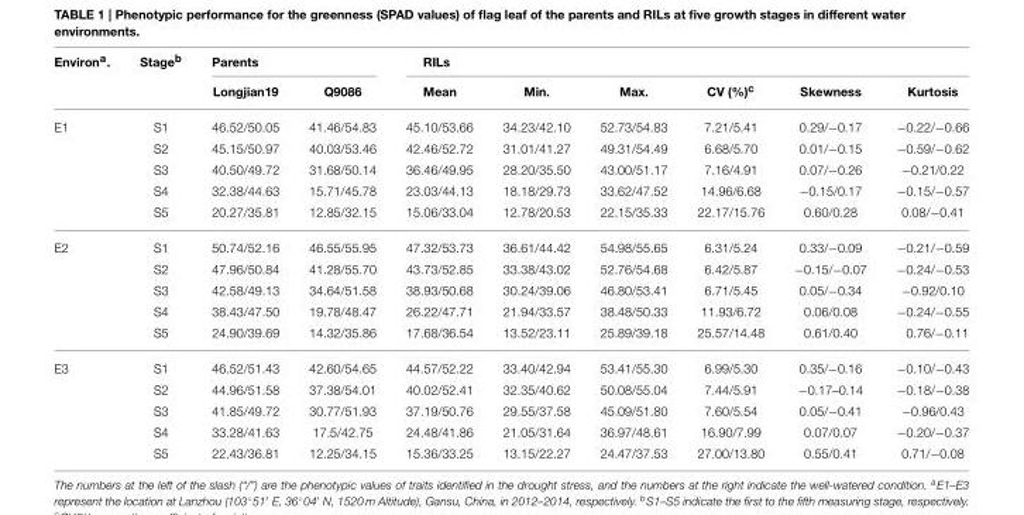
<table><thead><tr><td rowspan="2">Environ<sup>a</sup>.</td><td rowspan="2">Stage<sup>b</sup></td><td colspan="2">Parents</td><td colspan="6">RILs</td></tr><tr><td>Longjian19</td><td>Q9086</td><td>Mean</td><td>Min.</td><td>Max.</td><td>CV (%)<sup>c</sup></td><td>Skewness</td><td>Kurtosis</td></tr></thead><tbody><tr><td rowspan="5">E1</td><td>S1</td><td>46.52/50.05</td><td>41.46/54.83</td><td>45.10/53.66</td><td>34.23/42.10</td><td>52.73/54.83</td><td>7.21/5.41</td><td>0.29/−0.17</td><td>−0.22/−0.66</td></tr><tr><td>S2</td><td>45.15/50.97</td><td>40.03/53.46</td><td>42.46/52.72</td><td>31.01/41.27</td><td>49.31/54.49</td><td>6.68/5.70</td><td>0.01/−0.15</td><td>−0.59/−0.62</td></tr><tr><td>S3</td><td>40.50/49.72</td><td>31.68/50.14</td><td>36.46/49.95</td><td>28.20/35.50</td><td>43.00/51.17</td><td>7.16/4.91</td><td>0.07/−0.26</td><td>−0.21/0.22</td></tr><tr><td>S4</td><td>32.38/44.63</td><td>15.71/45.78</td><td>23.03/44.13</td><td>18.18/29.73</td><td>33.62/47.52</td><td>14.96/6.68</td><td>−0.15/0.17</td><td>−0.15/−0.57</td></tr><tr><td>S5</td><td>20.27/35.81</td><td>12.85/32.15</td><td>15.06/33.04</td><td>12.78/20.53</td><td>22.15/35.33</td><td>22.17/15.76</td><td>0.60/0.28</td><td>0.08/−0.41</td></tr><tr><td rowspan="5">E2</td><td>S1</td><td>50.74/52.16</td><td>46.55/55.95</td><td>47.32/53.73</td><td>36.61/44.42</td><td>54.98/55.65</td><td>6.31/5.24</td><td>0.33/−0.09</td><td>−0.21/−0.59</td></tr><tr><td>S2</td><td>47.96/50.84</td><td>41.28/55.70</td><td>43.73/52.85</td><td>33.38/43.02</td><td>52.76/54.68</td><td>6.42/5.87</td><td>−0.15/−0.07</td><td>−0.24/−0.53</td></tr><tr><td>S3</td><td>42.58/49.13</td><td>34.64/51.58</td><td>38.93/50.68</td><td>30.24/39.06</td><td>46.80/53.41</td><td>6.71/5.45</td><td>0.05/−0.34</td><td>−0.92/0.10</td></tr><tr><td>S4</td><td>38.43/47.50</td><td>19.78/48.47</td><td>26.22/47.71</td><td>21.94/33.57</td><td>38.48/50.33</td><td>11.93/6.72</td><td>0.06/0.08</td><td>−0.24/−0.55</td></tr><tr><td>S5</td><td>24.90/39.69</td><td>14.32/35.86</td><td>17.68/36.54</td><td>13.52/23.11</td><td>25.89/39.18</td><td>25.57/14.48</td><td>0.61/0.40</td><td>0.76/−0.11</td></tr><tr><td rowspan="5">E3</td><td>S1</td><td>46.52/51.43</td><td>42.60/54.65</td><td>44.57/52.22</td><td>33.40/42.94</td><td>53.41/55.30</td><td>6.99/5.30</td><td>0.35/−0.16</td><td>−0.10/−0.43</td></tr><tr><td>S2</td><td>44.96/51.58</td><td>37.38/54.01</td><td>40.02/52.41</td><td>32.35/40.62</td><td>50.08/55.04</td><td>7.44/5.91</td><td>−0.17–0.14</td><td>−0.18/−0.38</td></tr><tr><td>S3</td><td>41.85/49.72</td><td>30.77/51.93</td><td>37.19/50.76</td><td>29.55/37.58</td><td>45.09/51.80</td><td>7.60/5.54</td><td>0.05/−0.41</td><td>−0.96/0.43</td></tr><tr><td>S4</td><td>33.28/41.63</td><td>17.5/42.75</td><td>24.48/41.86</td><td>21.05/31.64</td><td>36.97/48.61</td><td>16.90/7.99</td><td>0.07/0.07</td><td>−0.20/−0.37</td></tr><tr><td>S5</td><td>22.43/36.81</td><td>12.25/34.15</td><td>15.36/33.25</td><td>13.15/22.27</td><td>24.47/37.53</td><td>27.00/13.80</td><td>0.55/0.41</td><td>0.71/−0.08</td></tr></tbody></table>